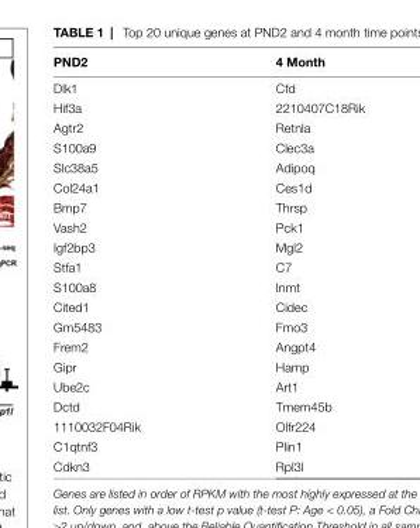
<table><thead><tr><td>PnD2</td><td>4 Month</td></tr></thead><tbody><tr><td>Dlk1</td><td>Cfd</td></tr><tr><td>Hif3a</td><td>2210407C18Rik</td></tr><tr><td>Agtr2</td><td>Retnla</td></tr><tr><td>S100a9</td><td>Clec3a</td></tr><tr><td>Slc38a5</td><td>Adipoq</td></tr><tr><td>Col24a1</td><td>Ces1d</td></tr><tr><td>Bmp7</td><td>Thrsp</td></tr><tr><td>Vash2</td><td>Pck1</td></tr><tr><td>Igf2bp3</td><td>Mgl2</td></tr><tr><td>Stfa1</td><td>C7</td></tr><tr><td>S100a8</td><td>Inmt</td></tr><tr><td>Cited1</td><td>Cidec</td></tr><tr><td>Gm5483</td><td>Fmo3</td></tr><tr><td>Frem2</td><td>Angpt4</td></tr><tr><td>Gipr</td><td>Hamp</td></tr><tr><td>Ube2c</td><td>Art1</td></tr><tr><td>Dctd</td><td>Tmem45b</td></tr><tr><td>1110032F04Rik</td><td>Olfr224</td></tr><tr><td>C1qtnf3</td><td>Plin1</td></tr><tr><td>Cdkn3</td><td>Rpl3l</td></tr></tbody></table>